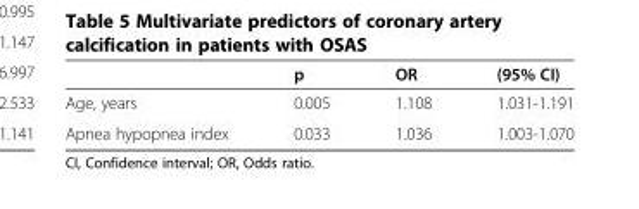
<table><thead><tr><td></td><td>p</td><td>OR</td><td>(95% CI)</td></tr></thead><tbody><tr><td>Age, years</td><td>0.005</td><td>1.108</td><td>1.031-1.191</td></tr><tr><td>Apnea hypopnea index</td><td>0.033</td><td>1.036</td><td>1.003-1.070</td></tr></tbody></table>